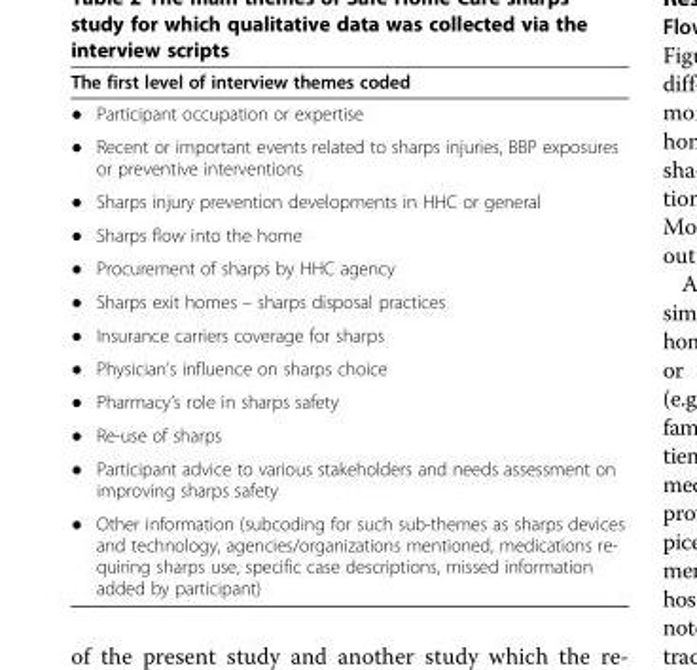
<table><thead><tr><td colspan="2">The first level of interview themes coded</td></tr><tr><td>●</td><td>Participant occupation or expertise</td></tr></thead><tbody><tr><td>●</td><td>Recent or important events related to sharps injuries, BBP exposures or preventive interventions</td></tr><tr><td>●</td><td>Sharps injury prevention developments in HHC or general</td></tr><tr><td>●</td><td>Sharps flow into the home</td></tr><tr><td>●</td><td>Procurement of sharps by HHC agency</td></tr><tr><td>●</td><td>Sharps exit homes – sharps disposal practices</td></tr><tr><td>●</td><td>Insurance carriers coverage for sharps</td></tr><tr><td>●</td><td>Physician’s influence on sharps choice</td></tr><tr><td>●</td><td>Pharmacy’s role in sharps safety</td></tr><tr><td>●</td><td>Re-use of sharps</td></tr><tr><td>●</td><td>Participant advice to various stakeholders and needs assessment on improving sharps safety</td></tr><tr><td>●</td><td>Other information (subcoding for such sub-themes as sharps devices and technology, agencies/organizations mentioned, medications re- quiring sharps use, specific case descriptions, missed information added by participant)</td></tr></tbody></table>